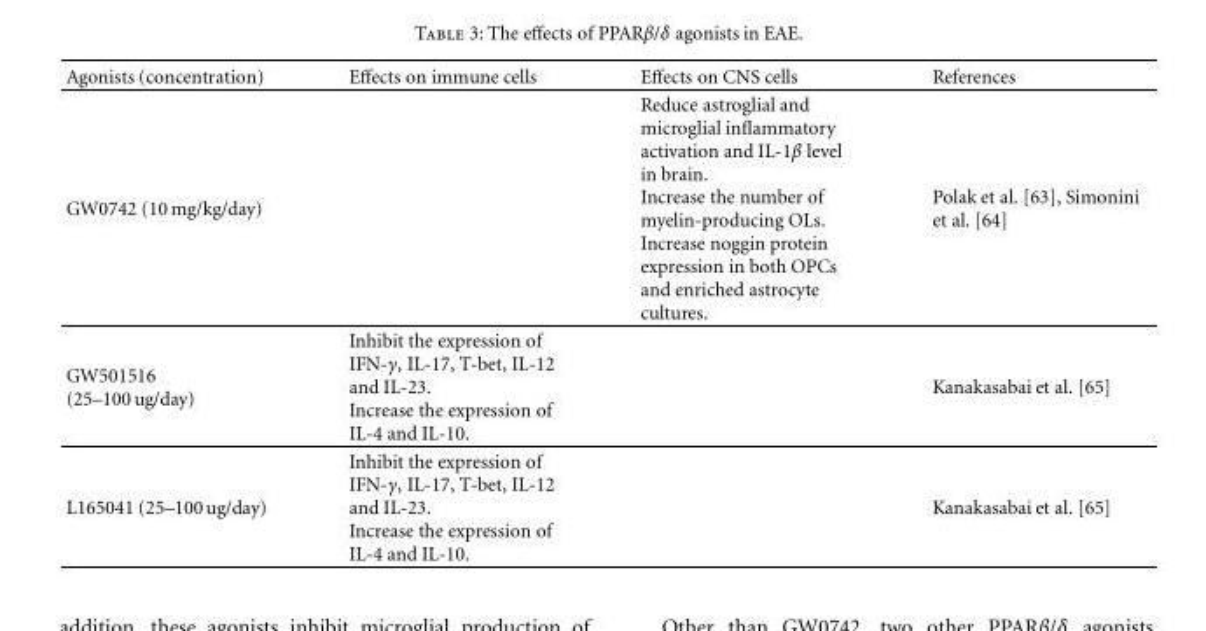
<table><thead><tr><td>Agonists (concentration)</td><td>Effects on immune cells</td><td>Effects on CNS cells</td><td>References</td></tr></thead><tbody><tr><td>GW0742 (10 mg/kg/day)</td><td></td><td>Reduce astroglial and microglial inflammatory activation and IL-1β level in brain. Increase the number of myelin-producing OLs. Increase noggin protein expression in both OPCs and enriched astrocyte cultures.</td><td>Polak et al. [63], Simonini et al. [64]</td></tr><tr><td>GW501516 (25–100ug/day)</td><td>Inhibit the expression of IFN-γ, IL-17, T-bet, IL-12 and IL-23. Increase the expression of IL-4 and IL-10.</td><td></td><td>Kanakasabai et al. [65]</td></tr><tr><td>L165041 (25–100ug/day)</td><td>Inhibit the expression of IFN-γ, IL-17, T-bet, IL-12 and IL-23. Increase the expression of IL-4 and IL-10.</td><td></td><td>Kanakasabai et al. [65]</td></tr></tbody></table>